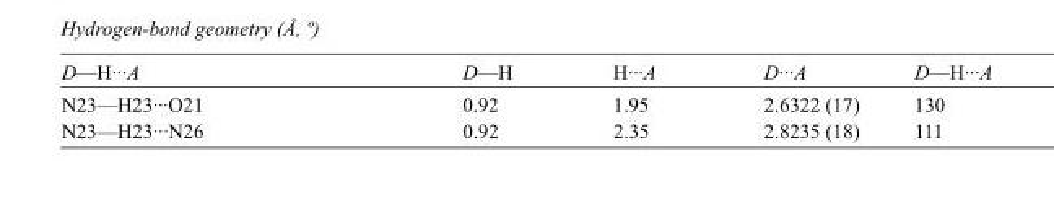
<table><tbody><tr><td>D—H···A</td><td>D—H</td><td>H···A</td><td>D···A</td><td>D—H···A</td></tr><tr><td>N23—H23···O21</td><td>0.92</td><td>1.95</td><td>2.6322 (17)</td><td>130</td></tr><tr><td>N23—H23···N26</td><td>0.92</td><td>2.35</td><td>2.8235 (18)</td><td>111</td></tr></tbody></table>